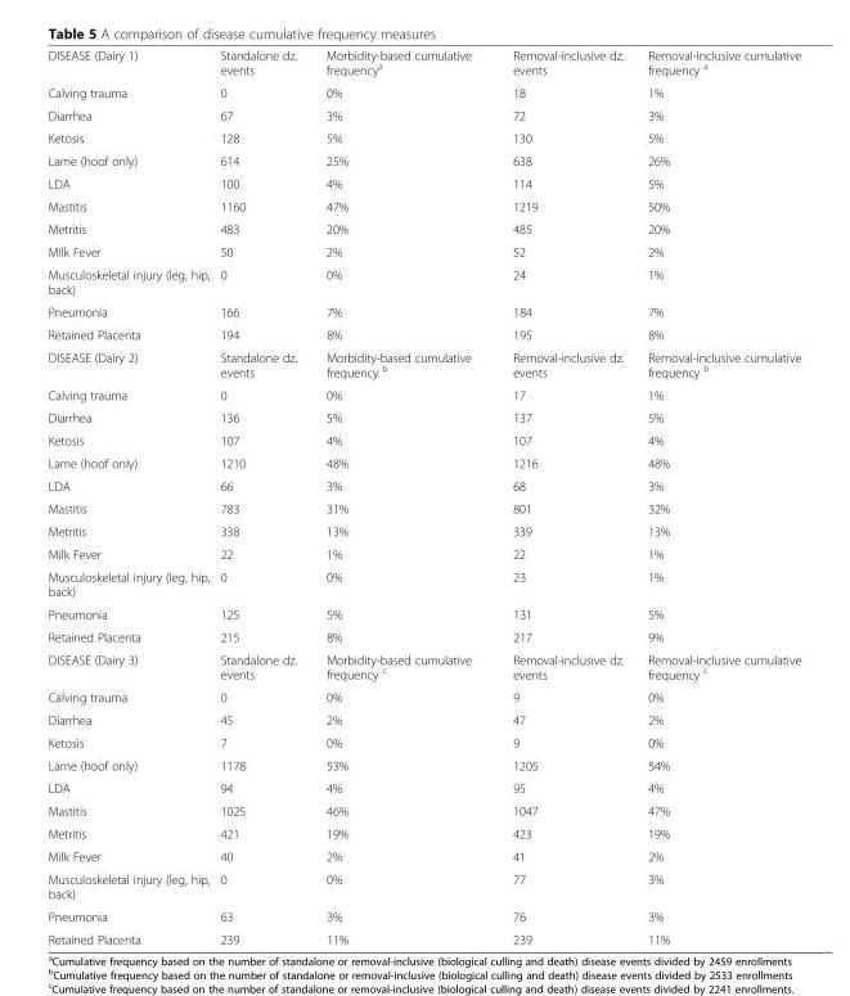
<table><tbody><tr><td>DISEASE (Dairy 1)</td><td>Standalone dz. events</td><td>Morbidity-based cumulative frequency<sup>a</sup></td><td>Removal-inclusive dz. events</td><td>Removal-inclusive cumulative frequency <sup>a</sup></td></tr><tr><td>Calving trauma</td><td>0</td><td>0%</td><td>18</td><td>1%</td></tr><tr><td>Diarrhea</td><td>67</td><td>3%</td><td>72</td><td>3%</td></tr><tr><td>Ketosis</td><td>128</td><td>5%</td><td>130</td><td>5%</td></tr><tr><td>Lame (hoof only)</td><td>614</td><td>25%</td><td>638</td><td>26%</td></tr><tr><td>LDA</td><td>100</td><td>4%</td><td>114</td><td>5%</td></tr><tr><td>Mastitis</td><td>1160</td><td>47%</td><td>1219</td><td>50%</td></tr><tr><td>Metritis</td><td>483</td><td>20%</td><td>485</td><td>20%</td></tr><tr><td>Milk Fever</td><td>50</td><td>2%</td><td>52</td><td>2%</td></tr><tr><td>Musculoskeletal injury (leg, hip, back)</td><td>0</td><td>0%</td><td>24</td><td>1%</td></tr><tr><td>Pneumonia</td><td>166</td><td>7%</td><td>184</td><td>7%</td></tr><tr><td>Retained Placenta</td><td>194</td><td>8%</td><td>195</td><td>8%</td></tr><tr><td>DISEASE (Dairy 2)</td><td>Standalone dz. events</td><td>Morbidity-based cumulative frequency <sup>b</sup></td><td>Removal-inclusive dz. events</td><td>Removal-inclusive cumulative frequency <sup>b</sup></td></tr><tr><td>Calving trauma</td><td>0</td><td>0%</td><td>17</td><td>1%</td></tr><tr><td>Diarrhea</td><td>136</td><td>5%</td><td>137</td><td>5%</td></tr><tr><td>Ketosis</td><td>107</td><td>4%</td><td>107</td><td>4%</td></tr><tr><td>Lame (hoof only)</td><td>1210</td><td>48%</td><td>1216</td><td>48%</td></tr><tr><td>LDA</td><td>66</td><td>3%</td><td>68</td><td>3%</td></tr><tr><td>Mastitis</td><td>783</td><td>31%</td><td>801</td><td>32%</td></tr><tr><td>Metritis</td><td>338</td><td>13%</td><td>339</td><td>13%</td></tr><tr><td>Milk Fever</td><td>22</td><td>1%</td><td>22</td><td>1%</td></tr><tr><td>Musculoskeletal injury (leg, hip, back)</td><td>0</td><td>0%</td><td>23</td><td>1%</td></tr><tr><td>Pneumonia</td><td>125</td><td>5%</td><td>131</td><td>5%</td></tr><tr><td>Retained Placenta</td><td>215</td><td>8%</td><td>217</td><td>9%</td></tr><tr><td>DISEASE (Dairy 3)</td><td>Standalone dz. events</td><td>Morbidity-based cumulative frequency <sup>c</sup></td><td>Removal-inclusive dz. events</td><td>Removal-inclusive cumulative frequency <sup>c</sup></td></tr><tr><td>Calving trauma</td><td>0</td><td>0%</td><td>9</td><td>0%</td></tr><tr><td>Diarrhea</td><td>45</td><td>2%</td><td>47</td><td>2%</td></tr><tr><td>Ketosis</td><td>7</td><td>0%</td><td>9</td><td>0%</td></tr><tr><td>Lame (hoof only)</td><td>1178</td><td>53%</td><td>1205</td><td>54%</td></tr><tr><td>LDA</td><td>94</td><td>4%</td><td>95</td><td>4%</td></tr><tr><td>Mastitis</td><td>1025</td><td>46%</td><td>1047</td><td>47%</td></tr><tr><td>Metritis</td><td>421</td><td>19%</td><td>423</td><td>19%</td></tr><tr><td>Milk Fever</td><td>40</td><td>2%</td><td>41</td><td>2%</td></tr><tr><td>Musculoskeletal injury (leg, hip, back)</td><td>0</td><td>0%</td><td>77</td><td>3%</td></tr><tr><td>Pneumonia</td><td>63</td><td>3%</td><td>76</td><td>3%</td></tr><tr><td>Retained Placenta</td><td>239</td><td>11%</td><td>239</td><td>11%</td></tr></tbody></table>